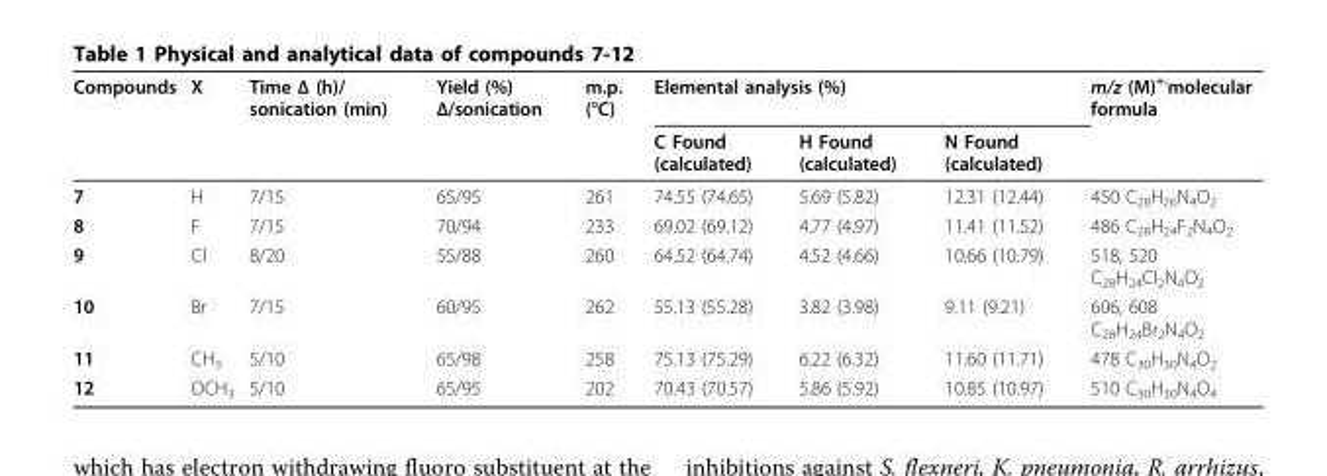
<table><thead><tr><td rowspan="2">Compounds</td><td rowspan="2">X</td><td rowspan="2">Time Δ (h)/ sonication (min)</td><td rowspan="2">Yield (%) Δ/sonication</td><td rowspan="2">m.p. (°C)</td><td colspan="3">Elemental analysis (%)</td><td rowspan="2">m/z (M)<sup>+.</sup>molecular formula</td></tr><tr><td>C Found (calculated)</td><td>H Found (calculated)</td><td>N Found (calculated)</td></tr></thead><tbody><tr><td>7</td><td>H</td><td>7/15</td><td>65/95</td><td>261</td><td>74.55 (74.65)</td><td>5.69 (5.82)</td><td>12.31 (12.44)</td><td>450 C<sub>28</sub>H<sub>26</sub>N<sub>4</sub>O<sub>2</sub></td></tr><tr><td>8</td><td>F</td><td>7/15</td><td>70/94</td><td>233</td><td>69.02 (69.12)</td><td>4.77 (4.97)</td><td>11.41 (11.52)</td><td>486 C<sub>28</sub>H<sub>24</sub>F<sub>2</sub>N<sub>4</sub>O<sub>2</sub></td></tr><tr><td>9</td><td>Cl</td><td>8/20</td><td>55/88</td><td>260</td><td>64.52 (64.74)</td><td>4.52 (4.66)</td><td>10.66 (10.79)</td><td>518, 520 C<sub>28</sub>H<sub>24</sub>Cl<sub>2</sub>N<sub>4</sub>O<sub>2</sub></td></tr><tr><td>10</td><td>Br</td><td>7/15</td><td>60/95</td><td>262</td><td>55.13 (55.28)</td><td>3.82 (3.98)</td><td>9.11 (9.21)</td><td>606, 608 C<sub>28</sub>H<sub>24</sub>Br<sub>2</sub>N<sub>4</sub>O<sub>2</sub></td></tr><tr><td>11</td><td>CH<sub>3</sub></td><td>5/10</td><td>65/98</td><td>258</td><td>75.13 (75.29)</td><td>6.22 (6.32)</td><td>11.60 (11.71)</td><td>478 C<sub>30</sub>H<sub>30</sub>N<sub>4</sub>O<sub>2</sub></td></tr><tr><td>12</td><td>OCH<sub>3</sub></td><td>5/10</td><td>65/95</td><td>202</td><td>70.43 (70.57)</td><td>5.86 (5.92)</td><td>10.85 (10.97)</td><td>510 C<sub>30</sub>H<sub>30</sub>N<sub>4</sub>O<sub>4</sub></td></tr></tbody></table>